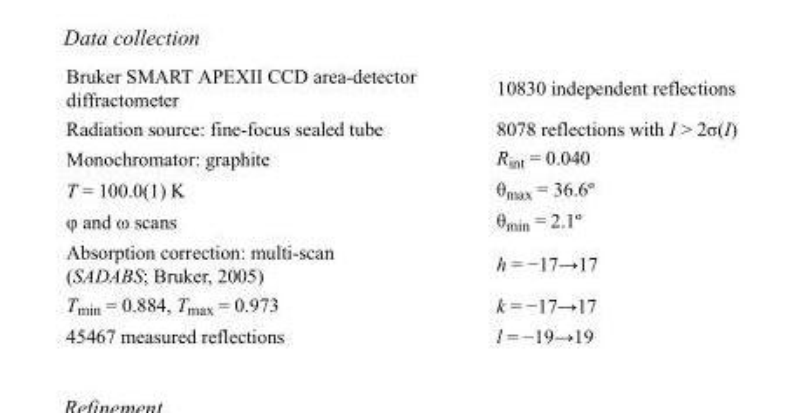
<table><tbody><tr><td>Bruker SMART APEXII CCD area-detector diffractometer</td><td>10830 independent reflections</td></tr><tr><td>Radiation source: fine-focus sealed tube</td><td>8078 reflections with I &gt; 2σ(I)</td></tr><tr><td>Monochromator: graphite</td><td>R<sub>int</sub> = 0.040</td></tr><tr><td>T = 100.0(1) K</td><td>θ<sub>max</sub> = 36.6º</td></tr><tr><td>φ and ω scans</td><td>θ<sub>min</sub> = 2.1º</td></tr><tr><td>Absorption correction: multi-scan (SADABS; Bruker, 2005)</td><td>h = −17→17</td></tr><tr><td>T<sub>min</sub> = 0.884, T<sub>max</sub> = 0.973</td><td>k = −17→17</td></tr><tr><td>45467 measured reflections</td><td>l = −19→19</td></tr></tbody></table>